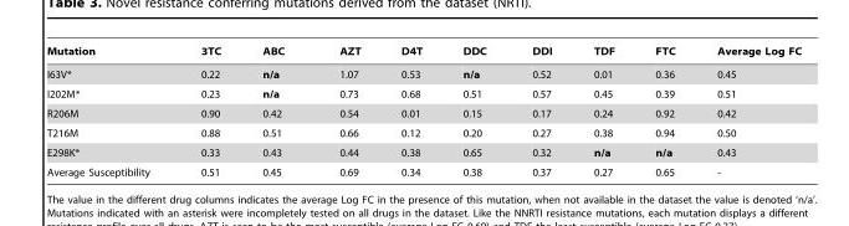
<table><thead><tr><td>Mutation</td><td>3TC</td><td>ABC</td><td>AZT</td><td>D4T</td><td>DDC</td><td>DDI</td><td>TDF</td><td>FTC</td><td>Average Log FC</td></tr></thead><tbody><tr><td>I63V*</td><td>0.22</td><td>n/a</td><td>1.07</td><td>0.53</td><td>n/a</td><td>0.52</td><td>0.01</td><td>0.36</td><td>0.45</td></tr><tr><td>I202M*</td><td>0.23</td><td>n/a</td><td>0.73</td><td>0.68</td><td>0.51</td><td>0.57</td><td>0.45</td><td>0.39</td><td>0.51</td></tr><tr><td>R206M</td><td>0.90</td><td>0.42</td><td>0.54</td><td>0.01</td><td>0.15</td><td>0.17</td><td>0.24</td><td>0.92</td><td>0.42</td></tr><tr><td>T216M</td><td>0.88</td><td>0.51</td><td>0.66</td><td>0.12</td><td>0.20</td><td>0.27</td><td>0.38</td><td>0.94</td><td>0.50</td></tr><tr><td>E298K*</td><td>0.33</td><td>0.43</td><td>0.44</td><td>0.38</td><td>0.65</td><td>0.32</td><td>n/a</td><td>n/a</td><td>0.43</td></tr><tr><td>Average Susceptibility</td><td>0.51</td><td>0.45</td><td>0.69</td><td>0.34</td><td>0.38</td><td>0.37</td><td>0.27</td><td>0.65</td><td>-</td></tr></tbody></table>